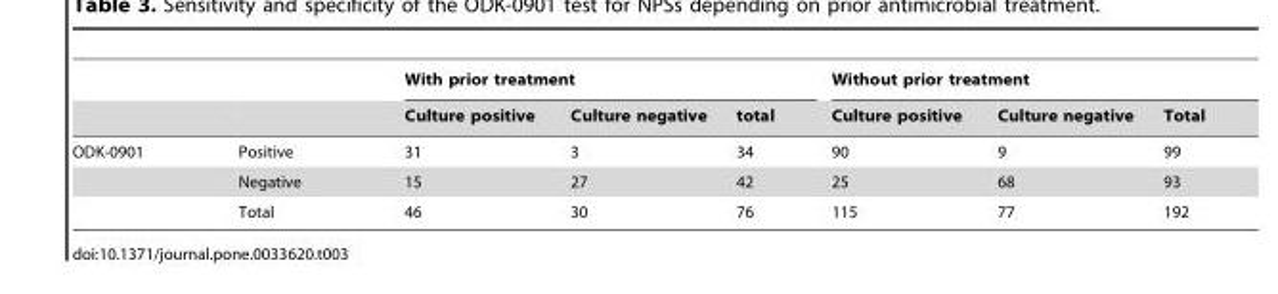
<table><thead><tr><td rowspan="2"></td><td rowspan="2"></td><td colspan="3">With prior treatment</td><td colspan="3">Without prior treatment</td></tr><tr><td>Culture positive</td><td>Culture negative</td><td>total</td><td>Culture positive</td><td>Culture negative</td><td>Total</td></tr></thead><tbody><tr><td rowspan="3">ODK-0901</td><td>Positive</td><td>31</td><td>3</td><td>34</td><td>90</td><td>9</td><td>99</td></tr><tr><td>Negative</td><td>15</td><td>27</td><td>42</td><td>25</td><td>68</td><td>93</td></tr><tr><td>Total</td><td>46</td><td>30</td><td>76</td><td>115</td><td>77</td><td>192</td></tr></tbody></table>